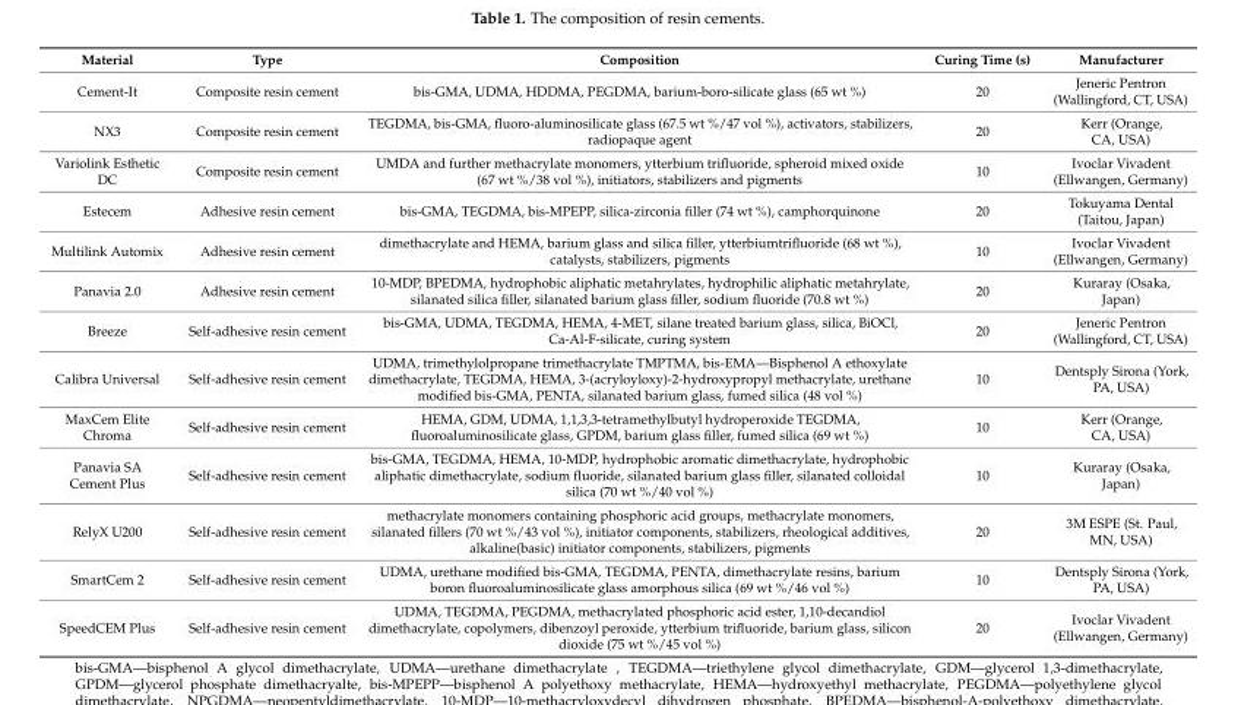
<table><thead><tr><td>Material</td><td>Type</td><td>Composition</td><td>Curing Time (s)</td><td>Manufacturer</td></tr></thead><tbody><tr><td>Cement-It</td><td>Composite resin cement</td><td>bis-GMA, UDMA, HDDMA, PEGDMA, barium-boro-silicate glass (65 wt %)</td><td>20</td><td>Jeneric Pentron (Wallingford, CT, USA)</td></tr><tr><td>NX3</td><td>Composite resin cement</td><td>TEGDMA, bis-GMA, fluoro-aluminosilicate glass (67.5 wt %/47 vol %), activators, stabilizers, radiopaque agent</td><td>20</td><td>Kerr (Orange, CA, USA)</td></tr><tr><td>Variolink Esthetic DC</td><td>Composite resin cement</td><td>UMDA and further methacrylate monomers, ytterbium trifluoride, spheroid mixed oxide (67 wt %/38 vol %), initiators, stabilizers and pigments</td><td>10</td><td>Ivoclar Vivadent (Ellwangen, Germany)</td></tr><tr><td>Estecem</td><td>Adhesive resin cement</td><td>bis-GMA, TEGDMA, bis-MPEPP, silica-zirconia filler (74 wt %), camphorquinone</td><td>20</td><td>Tokuyama Dental (Taitou, Japan)</td></tr><tr><td>Multilink Automix</td><td>Adhesive resin cement</td><td>dimethacrylate and HEMA, barium glass and silica filler, ytterbiumtrifluoride (68 wt %), catalysts, stabilizers, pigments</td><td>10</td><td>Ivoclar Vivadent (Ellwangen, Germany)</td></tr><tr><td>Panavia 2.0</td><td>Adhesive resin cement</td><td>10-MDP, BPEDMA, hydrophobic aliphatic metahrylates, hydrophilic aliphatic metahrylate, silanated silica filler, silanated barium glass filler, sodium fluoride (70.8 wt %)</td><td>20</td><td>Kuraray (Osaka, Japan)</td></tr><tr><td>Breeze</td><td>Self-adhesive resin cement</td><td>bis-GMA, UDMA, TEGDMA, HEMA, 4-MET, silane treated barium glass, silica, BiOCl, Ca-Al-F-silicate, curing system</td><td>20</td><td>Jeneric Pentron (Wallingford, CT, USA)</td></tr><tr><td>Calibra Universal</td><td>Self-adhesive resin cement</td><td>UDMA, trimethylolpropane trimethacrylate TMPTMA, bis-EMA—Bisphenol A ethoxylate dimethacrylate, TEGDMA, HEMA, 3-(acryloyloxy)-2-hydroxypropyl methacrylate, urethane modified bis-GMA, PENTA, silanated barium glass, fumed silica (48 vol %)</td><td>10</td><td>Dentsply Sirona (York, PA, USA)</td></tr><tr><td>MaxCem Elite Chroma</td><td>Self-adhesive resin cement</td><td>HEMA, GDM, UDMA, 1,1,3,3-tetramethylbutyl hydroperoxide TEGDMA, fluoroaluminosilicate glass, GPDM, barium glass filler, fumed silica (69 wt %)</td><td>10</td><td>Kerr (Orange, CA, USA)</td></tr><tr><td>Panavia SA Cement Plus</td><td>Self-adhesive resin cement</td><td>bis-GMA, TEGDMA, HEMA, 10-MDP, hydrophobic aromatic dimethacrylate, hydrophobic aliphatic dimethacrylate, sodium fluoride, silanated barium glass filler, silanated colloidal silica (70 wt %/40 vol %)</td><td>10</td><td>Kuraray (Osaka, Japan)</td></tr><tr><td>RelyX U200</td><td>Self-adhesive resin cement</td><td>methacrylate monomers containing phosphoric acid groups, methacrylate monomers, silanated fillers (70 wt %/43 vol %), initiator components, stabilizers, rheological additives, alkaline(basic) initiator components, stabilizers, pigments</td><td>20</td><td>3M ESPE (St. Paul, MN, USA)</td></tr><tr><td>SmartCem 2</td><td>Self-adhesive resin cement</td><td>UDMA, urethane modified bis-GMA, TEGDMA, PENTA, dimethacrylate resins, barium boron fluoroaluminosilicate glass amorphous silica (69 wt %/46 vol %)</td><td>10</td><td>Dentsply Sirona (York, PA, USA)</td></tr><tr><td>SpeedCEM Plus</td><td>Self-adhesive resin cement</td><td>UDMA, TEGDMA, PEGDMA, methacrylated phosphoric acid ester, 1,10-decandiol dimethacrylate, copolymers, dibenzoyl peroxide, ytterbium trifluoride, barium glass, silicon dioxide (75 wt %/45 vol %)</td><td>20</td><td>Ivoclar Vivadent (Ellwangen, Germany)</td></tr></tbody></table>